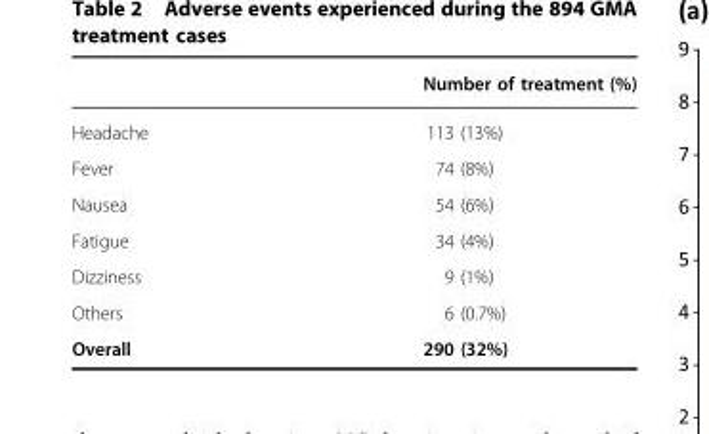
<table><thead><tr><td></td><td>Number of treatment (%)</td></tr></thead><tbody><tr><td>Headache</td><td>113 (13%)</td></tr><tr><td>Fever</td><td>74 (8%)</td></tr><tr><td>Nausea</td><td>54 (6%)</td></tr><tr><td>Fatigue</td><td>34 (4%)</td></tr><tr><td>Dizziness</td><td>9 (1%)</td></tr><tr><td>Others</td><td>6 (0.7%)</td></tr><tr><td>Overall</td><td>290 (32%)</td></tr></tbody></table>